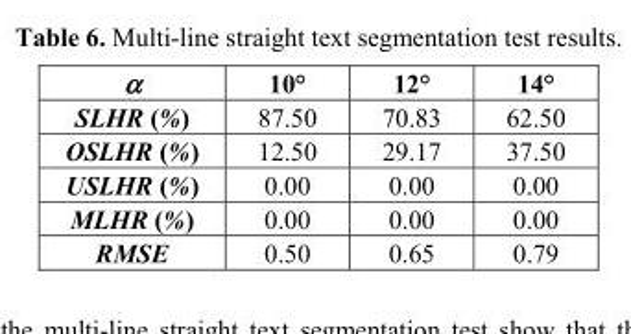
<table><thead><tr><td>α</td><td>10°</td><td>12°</td><td>14°</td></tr></thead><tbody><tr><td>SLHR (%)</td><td>87.50</td><td>70.83</td><td>62.50</td></tr><tr><td>OSLHR (%)</td><td>12.50</td><td>29.17</td><td>37.50</td></tr><tr><td>USLHR (%)</td><td>0.00</td><td>0.00</td><td>0.00</td></tr><tr><td>MLHR (%)</td><td>0.00</td><td>0.00</td><td>0.00</td></tr><tr><td>RMSE</td><td>0.50</td><td>0.65</td><td>0.79</td></tr></tbody></table>